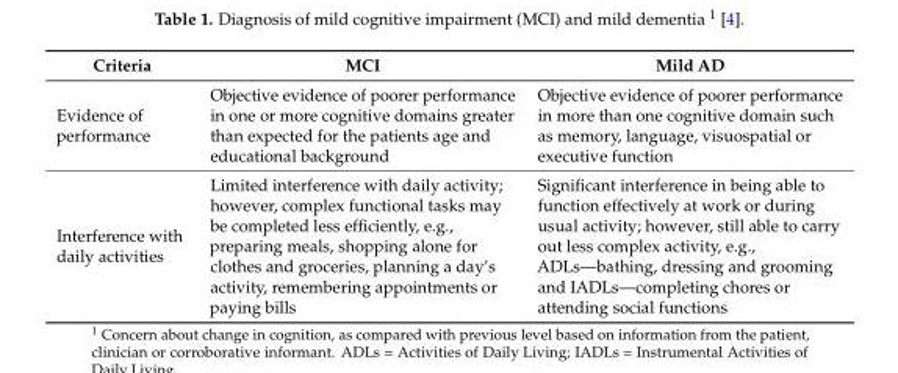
<table><thead><tr><td>Criteria</td><td>MCI</td><td>Mild AD</td></tr></thead><tbody><tr><td>Evidence of performance</td><td>Objective evidence of poorer performance in one or more cognitive domains greater than expected for the patients age and educational background</td><td>Objective evidence of poorer performance in more than one cognitive domain such as memory, language, visuospatial or executive function</td></tr><tr><td>Interference with daily activities</td><td>Limited interference with daily activity; however, complex functional tasks may be completed less efficiently, e.g., preparing meals, shopping alone for clothes and groceries, planning a day’s activity, remembering appointments or paying bills</td><td>Significant interference in being able to function effectively at work or during usual activity; however, still able to carry out less complex activity, e.g., ADLs—bathing, dressing and grooming and IADLs—completing chores or attending social functions</td></tr></tbody></table>